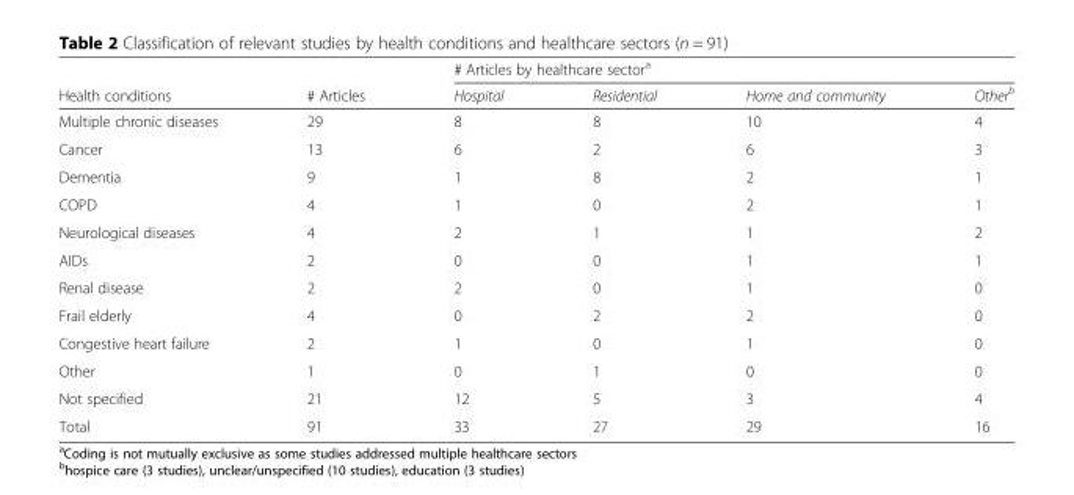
<table><thead><tr><td rowspan="2">Health conditions</td><td rowspan="2"># Articles</td><td colspan="4"># Articles by healthcare sector<sup>a</sup></td></tr><tr><td>Hospital</td><td>Residential</td><td>Home and community</td><td>Other<sup>b</sup></td></tr></thead><tbody><tr><td>Multiple chronic diseases</td><td>29</td><td>8</td><td>8</td><td>10</td><td>4</td></tr><tr><td>Cancer</td><td>13</td><td>6</td><td>2</td><td>6</td><td>3</td></tr><tr><td>Dementia</td><td>9</td><td>1</td><td>8</td><td>2</td><td>1</td></tr><tr><td>COPD</td><td>4</td><td>1</td><td>0</td><td>2</td><td>1</td></tr><tr><td>Neurological diseases</td><td>4</td><td>2</td><td>1</td><td>1</td><td>2</td></tr><tr><td>AIDs</td><td>2</td><td>0</td><td>0</td><td>1</td><td>1</td></tr><tr><td>Renal disease</td><td>2</td><td>2</td><td>0</td><td>1</td><td>0</td></tr><tr><td>Frail elderly</td><td>4</td><td>0</td><td>2</td><td>2</td><td>0</td></tr><tr><td>Congestive heart failure</td><td>2</td><td>1</td><td>0</td><td>1</td><td>0</td></tr><tr><td>Other</td><td>1</td><td>0</td><td>1</td><td>0</td><td>0</td></tr><tr><td>Not specified</td><td>21</td><td>12</td><td>5</td><td>3</td><td>4</td></tr><tr><td>Total</td><td>91</td><td>33</td><td>27</td><td>29</td><td>16</td></tr></tbody></table>